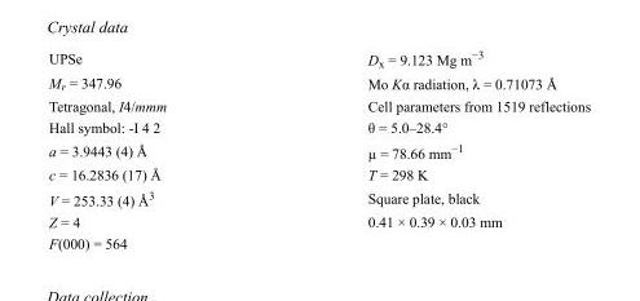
<table><tbody><tr><td>UPSe</td><td>D<sub>x</sub> = 9.123 Mg m<sup>−3</sup></td></tr><tr><td>M<sub>r</sub> = 347.96</td><td>Mo Kα radiation, λ = 0.71073 Å</td></tr><tr><td>Tetragonal, I4/mmm</td><td>Cell parameters from 1519 reflections</td></tr><tr><td>Hall symbol: -I 4 2</td><td>θ = 5.0–28.4°</td></tr><tr><td>a = 3.9443 (4) Å</td><td>µ = 78.66 mm<sup>−1</sup></td></tr><tr><td>c = 16.2836 (17) Å</td><td>T = 298 K</td></tr><tr><td>V = 253.33 (4) Å<sup>3</sup></td><td>Square plate, black</td></tr><tr><td>Z = 4</td><td>0.41 × 0.39 × 0.03 mm</td></tr><tr><td>F(000) = 564</td><td></td></tr></tbody></table>